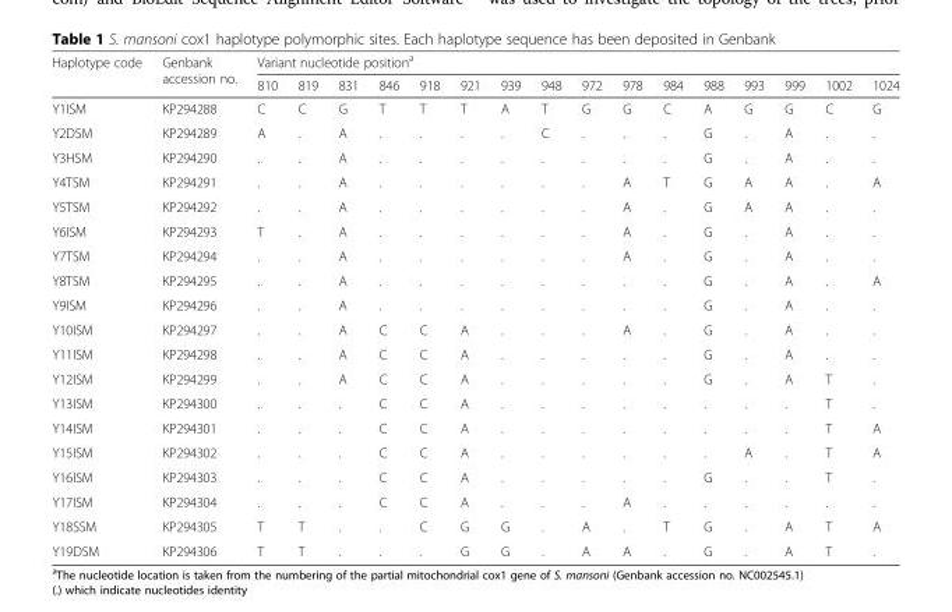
<table><thead><tr><td rowspan="2">Haplotype code</td><td rowspan="2">Genbank accession no.</td><td colspan="16">Variant nucleotide position<sup>a</sup></td></tr><tr><td>810</td><td>819</td><td>831</td><td>846</td><td>918</td><td>921</td><td>939</td><td>948</td><td>972</td><td>978</td><td>984</td><td>988</td><td>993</td><td>999</td><td>1002</td><td>1024</td></tr></thead><tbody><tr><td>Y1ISM</td><td>KP294288</td><td>C</td><td>C</td><td>G</td><td>T</td><td>T</td><td>T</td><td>A</td><td>T</td><td>G</td><td>G</td><td>C</td><td>A</td><td>G</td><td>G</td><td>C</td><td>G</td></tr><tr><td>Y2DSM</td><td>KP294289</td><td>A</td><td>.</td><td>A</td><td>.</td><td>.</td><td>.</td><td>.</td><td>C</td><td>.</td><td>.</td><td>.</td><td>G</td><td>.</td><td>A</td><td>.</td><td>.</td></tr><tr><td>Y3HSM</td><td>KP294290</td><td>.</td><td>.</td><td>A</td><td>.</td><td>.</td><td>.</td><td>.</td><td>.</td><td>.</td><td>.</td><td>.</td><td>G</td><td>.</td><td>A</td><td>.</td><td>.</td></tr><tr><td>Y4TSM</td><td>KP294291</td><td>.</td><td>.</td><td>A</td><td>.</td><td>.</td><td>.</td><td>.</td><td>.</td><td>.</td><td>A</td><td>T</td><td>G</td><td>A</td><td>A</td><td>.</td><td>A</td></tr><tr><td>Y5TSM</td><td>KP294292</td><td>.</td><td>.</td><td>A</td><td>.</td><td>.</td><td>.</td><td>.</td><td>.</td><td>.</td><td>A</td><td>.</td><td>G</td><td>A</td><td>A</td><td>.</td><td>.</td></tr><tr><td>Y6ISM</td><td>KP294293</td><td>T</td><td>.</td><td>A</td><td>.</td><td>.</td><td>.</td><td>.</td><td>.</td><td>.</td><td>A</td><td>.</td><td>G</td><td>.</td><td>A</td><td>.</td><td>.</td></tr><tr><td>Y7TSM</td><td>KP294294</td><td>.</td><td>.</td><td>A</td><td>.</td><td>.</td><td>.</td><td>.</td><td>.</td><td>.</td><td>A</td><td>.</td><td>G</td><td>.</td><td>A</td><td>.</td><td>.</td></tr><tr><td>Y8TSM</td><td>KP294295</td><td>.</td><td>.</td><td>A</td><td>.</td><td>.</td><td>.</td><td>.</td><td>.</td><td>.</td><td>.</td><td>.</td><td>G</td><td>.</td><td>A</td><td>.</td><td>A</td></tr><tr><td>Y9ISM</td><td>KP294296</td><td>.</td><td>.</td><td>A</td><td>.</td><td>.</td><td>.</td><td>.</td><td>.</td><td>.</td><td>.</td><td>.</td><td>G</td><td>.</td><td>A</td><td>.</td><td>.</td></tr><tr><td>Y10ISM</td><td>KP294297</td><td>.</td><td>.</td><td>A</td><td>C</td><td>C</td><td>A</td><td>.</td><td>.</td><td>.</td><td>A</td><td>.</td><td>G</td><td>.</td><td>A</td><td>.</td><td>.</td></tr><tr><td>Y11ISM</td><td>KP294298</td><td>.</td><td>.</td><td>A</td><td>C</td><td>C</td><td>A</td><td>.</td><td>.</td><td>.</td><td>.</td><td>.</td><td>G</td><td>.</td><td>A</td><td>.</td><td>.</td></tr><tr><td>Y12ISM</td><td>KP294299</td><td>.</td><td>.</td><td>A</td><td>C</td><td>C</td><td>A</td><td>.</td><td>.</td><td>.</td><td>.</td><td>.</td><td>G</td><td>.</td><td>A</td><td>T</td><td>.</td></tr><tr><td>Y13ISM</td><td>KP294300</td><td>.</td><td>.</td><td>.</td><td>C</td><td>C</td><td>A</td><td>.</td><td>.</td><td>.</td><td>.</td><td>.</td><td>.</td><td>.</td><td>.</td><td>T</td><td>.</td></tr><tr><td>Y14ISM</td><td>KP294301</td><td>.</td><td>.</td><td>.</td><td>C</td><td>C</td><td>A</td><td>.</td><td>.</td><td>.</td><td>.</td><td>.</td><td>.</td><td>.</td><td>.</td><td>T</td><td>A</td></tr><tr><td>Y15ISM</td><td>KP294302</td><td>.</td><td>.</td><td>.</td><td>C</td><td>C</td><td>A</td><td>.</td><td>.</td><td>.</td><td>.</td><td>.</td><td>.</td><td>A</td><td>.</td><td>T</td><td>A</td></tr><tr><td>Y16ISM</td><td>KP294303</td><td>.</td><td>.</td><td>.</td><td>C</td><td>C</td><td>A</td><td>.</td><td>.</td><td>.</td><td>.</td><td>.</td><td>G</td><td>.</td><td>.</td><td>T</td><td>.</td></tr><tr><td>Y17ISM</td><td>KP294304</td><td>.</td><td>.</td><td>.</td><td>C</td><td>C</td><td>A</td><td>.</td><td>.</td><td>.</td><td>A</td><td>.</td><td>.</td><td>.</td><td>.</td><td>.</td><td>.</td></tr><tr><td>Y18SSM</td><td>KP294305</td><td>T</td><td>T</td><td>.</td><td>.</td><td>C</td><td>G</td><td>G</td><td>.</td><td>A</td><td>.</td><td>T</td><td>G</td><td>.</td><td>A</td><td>T</td><td>A</td></tr><tr><td>Y19DSM</td><td>KP294306</td><td>T</td><td>T</td><td>.</td><td>.</td><td>.</td><td>G</td><td>G</td><td>.</td><td>A</td><td>A</td><td>.</td><td>G</td><td>.</td><td>A</td><td>T</td><td>.</td></tr></tbody></table>